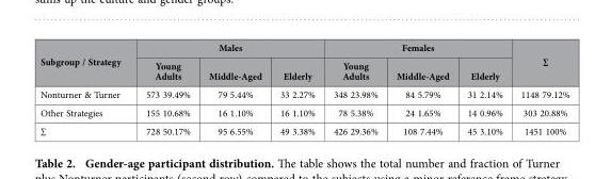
<table><thead><tr><td rowspan="2">Subgroup / Strategy</td><td colspan="3">Males</td><td colspan="3">Females</td><td rowspan="2">∑</td></tr><tr><td>Young Adults</td><td>Middle-Aged</td><td>Elderly</td><td>Young Adults</td><td>Middle-Aged</td><td>Elderly</td></tr></thead><tbody><tr><td>Nonturner &amp; Turner</td><td>573 39.49%</td><td>79 5.44%</td><td>33 2.27%</td><td>348 23.98%</td><td>84 5.79%</td><td>31 2.14%</td><td>1148 79.12%</td></tr><tr><td>Other Strategies</td><td>155 10.68%</td><td>16 1.10%</td><td>16 1.10%</td><td>78 5.38%</td><td>24 1.65%</td><td>14 0.96%</td><td>303 20.88%</td></tr><tr><td>∑</td><td>728 50.17%</td><td>95 6.55%</td><td>49 3.38%</td><td>426 29.36%</td><td>108 7.44%</td><td>45 3.10%</td><td>1451 100%</td></tr></tbody></table>